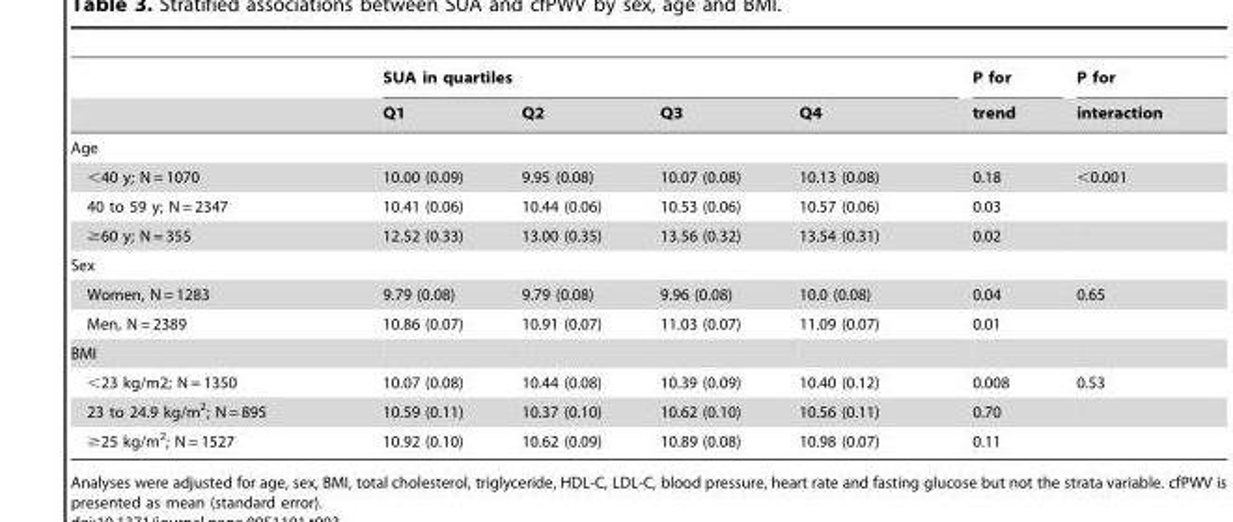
<table><thead><tr><td rowspan="2"></td><td colspan="4">SUA in quartiles</td><td rowspan="2">P for trend</td><td rowspan="2">P for interaction</td></tr><tr><td>Q1</td><td>Q2</td><td>Q3</td><td>Q4</td></tr></thead><tbody><tr><td colspan="7">Age</td></tr><tr><td>&lt;40 y; N = 1070</td><td>10.00 (0.09)</td><td>9.95 (0.08)</td><td>10.07 (0.08)</td><td>10.13 (0.08)</td><td>0.18</td><td>&lt;0.001</td></tr><tr><td>40 to 59 y; N = 2347</td><td>10.41 (0.06)</td><td>10.44 (0.06)</td><td>10.53 (0.06)</td><td>10.57 (0.06)</td><td>0.03</td><td></td></tr><tr><td>≥60 y; N = 355</td><td>12.52 (0.33)</td><td>13.00 (0.35)</td><td>13.56 (0.32)</td><td>13.54 (0.31)</td><td>0.02</td><td></td></tr><tr><td colspan="7">Sex</td></tr><tr><td>Women, N = 1283</td><td>9.79 (0.08)</td><td>9.79 (0.08)</td><td>9.96 (0.08)</td><td>10.0 (0.08)</td><td>0.04</td><td>0.65</td></tr><tr><td>Men, N = 2389</td><td>10.86 (0.07)</td><td>10.91 (0.07)</td><td>11.03 (0.07)</td><td>11.09 (0.07)</td><td>0.01</td><td></td></tr><tr><td colspan="7">BMI</td></tr><tr><td>&lt;23 kg/m2; N = 1350</td><td>10.07 (0.08)</td><td>10.44 (0.08)</td><td>10.39 (0.09)</td><td>10.40 (0.12)</td><td>0.008</td><td>0.53</td></tr><tr><td>23 to 24.9 kg/m<sup>2</sup>; N = 895</td><td>10.59 (0.11)</td><td>10.37 (0.10)</td><td>10.62 (0.10)</td><td>10.56 (0.11)</td><td>0.70</td><td></td></tr><tr><td>≥25 kg/m<sup>2</sup>; N = 1527</td><td>10.92 (0.10)</td><td>10.62 (0.09)</td><td>10.89 (0.08)</td><td>10.98 (0.07)</td><td>0.11</td><td></td></tr></tbody></table>